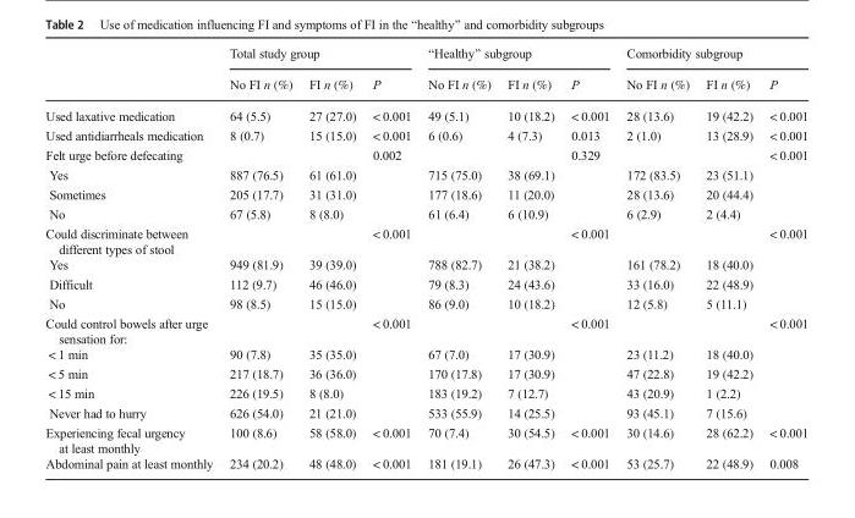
<table><thead><tr><td rowspan="2"></td><td colspan="3">Total study group</td><td colspan="3">“Healthy” subgroup</td><td colspan="3">Comorbidity subgroup</td></tr><tr><td>No FI n (%)</td><td>FI n (%)</td><td>P</td><td>No FI n (%)</td><td>FI n (%)</td><td>P</td><td>No FI n (%)</td><td>FI n (%)</td><td>P</td></tr></thead><tbody><tr><td>Used laxative medication</td><td>64 (5.5)</td><td>27 (27.0)</td><td>&lt; 0.001</td><td>49 (5.1)</td><td>10 (18.2)</td><td>&lt; 0.001</td><td>28 (13.6)</td><td>19 (42.2)</td><td>&lt; 0.001</td></tr><tr><td>Used antidiarrheals medication</td><td>8 (0.7)</td><td>15 (15.0)</td><td>&lt; 0.001</td><td>6 (0.6)</td><td>4 (7.3)</td><td>0.013</td><td>2 (1.0)</td><td>13 (28.9)</td><td>&lt; 0.001</td></tr><tr><td>Felt urge before defecating</td><td></td><td></td><td>0.002</td><td></td><td></td><td>0.329</td><td></td><td></td><td>&lt; 0.001</td></tr><tr><td>Yes</td><td>887 (76.5)</td><td>61 (61.0)</td><td></td><td>715 (75.0)</td><td>38 (69.1)</td><td></td><td>172 (83.5)</td><td>23 (51.1)</td><td></td></tr><tr><td>Sometimes</td><td>205 (17.7)</td><td>31 (31.0)</td><td></td><td>177 (18.6)</td><td>11 (20.0)</td><td></td><td>28 (13.6)</td><td>20 (44.4)</td><td></td></tr><tr><td>No</td><td>67 (5.8)</td><td>8 (8.0)</td><td></td><td>61 (6.4)</td><td>6 (10.9)</td><td></td><td>6 (2.9)</td><td>2 (4.4)</td><td></td></tr><tr><td>Could discriminate between different types of stool</td><td></td><td></td><td>&lt; 0.001</td><td></td><td></td><td>&lt; 0.001</td><td></td><td></td><td>&lt; 0.001</td></tr><tr><td>Yes</td><td>949 (81.9)</td><td>39 (39.0)</td><td></td><td>788 (82.7)</td><td>21 (38.2)</td><td></td><td>161 (78.2)</td><td>18 (40.0)</td><td></td></tr><tr><td>Difficult</td><td>112 (9.7)</td><td>46 (46.0)</td><td></td><td>79 (8.3)</td><td>24 (43.6)</td><td></td><td>33 (16.0)</td><td>22 (48.9)</td><td></td></tr><tr><td>No</td><td>98 (8.5)</td><td>15 (15.0)</td><td></td><td>86 (9.0)</td><td>10 (18.2)</td><td></td><td>12 (5.8)</td><td>5 (11.1)</td><td></td></tr><tr><td>Could control bowels after urge sensation for:</td><td></td><td></td><td>&lt; 0.001</td><td></td><td></td><td>&lt; 0.001</td><td></td><td></td><td>&lt; 0.001</td></tr><tr><td>&lt; 1 min</td><td>90 (7.8)</td><td>35 (35.0)</td><td></td><td>67 (7.0)</td><td>17 (30.9)</td><td></td><td>23 (11.2)</td><td>18 (40.0)</td><td></td></tr><tr><td>&lt; 5 min</td><td>217 (18.7)</td><td>36 (36.0)</td><td></td><td>170 (17.8)</td><td>17 (30.9)</td><td></td><td>47 (22.8)</td><td>19 (42.2)</td><td></td></tr><tr><td>&lt; 15 min</td><td>226 (19.5)</td><td>8 (8.0)</td><td></td><td>183 (19.2)</td><td>7 (12.7)</td><td></td><td>43 (20.9)</td><td>1 (2.2)</td><td></td></tr><tr><td>Never had to hurry</td><td>626 (54.0)</td><td>21 (21.0)</td><td></td><td>533 (55.9)</td><td>14 (25.5)</td><td></td><td>93 (45.1)</td><td>7 (15.6)</td><td></td></tr><tr><td>Experiencing fecal urgency at least monthly</td><td>100 (8.6)</td><td>58 (58.0)</td><td>&lt; 0.001</td><td>70 (7.4)</td><td>30 (54.5)</td><td>&lt; 0.001</td><td>30 (14.6)</td><td>28 (62.2)</td><td>&lt; 0.001</td></tr><tr><td>Abdominal pain at least monthly</td><td>234 (20.2)</td><td>48 (48.0)</td><td>&lt; 0.001</td><td>181 (19.1)</td><td>26 (47.3)</td><td>&lt; 0.001</td><td>53 (25.7)</td><td>22 (48.9)</td><td>0.008</td></tr></tbody></table>